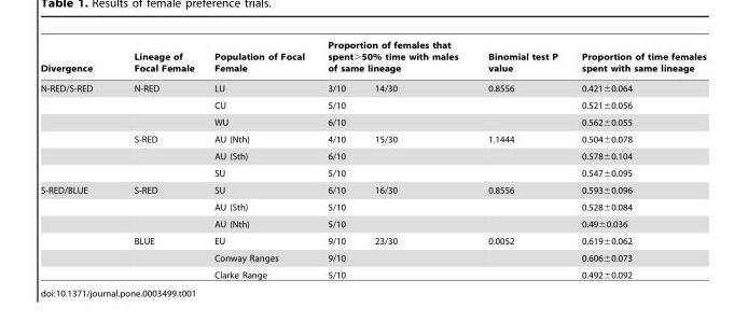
<table><thead><tr><td rowspan="2">Divergence N-RED/S-RED</td><td rowspan="2">Lineage of Focal Female N-RED</td><td rowspan="2">Population of Focal Female LU</td><td colspan="2">Proportion of females that spent&gt;50% time with males of same lineage</td><td rowspan="2">Binomial test P value 0.8556</td><td rowspan="2">Proportion of time females spent with same lineage 0.421±0.064</td></tr><tr><td>3/10</td><td>14/30</td></tr></thead><tbody><tr><td></td><td></td><td>CU</td><td>5/10</td><td></td><td></td><td>0.521±0.056</td></tr><tr><td></td><td></td><td>WU</td><td>6/10</td><td></td><td></td><td>0.562±0.055</td></tr><tr><td></td><td>S-RED</td><td>AU (Nth)</td><td>4/10</td><td>15/30</td><td>1.1444</td><td>0.504±0.078</td></tr><tr><td></td><td></td><td>AU (Sth)</td><td>6/10</td><td></td><td></td><td>0.578±0.104</td></tr><tr><td></td><td></td><td>SU</td><td>5/10</td><td></td><td></td><td>0.547±0.095</td></tr><tr><td rowspan="6">S-RED/BLUE</td><td>S-RED</td><td>SU</td><td>6/10</td><td>16/30</td><td>0.8556</td><td>0.593±0.096</td></tr><tr><td></td><td>AU (Sth)</td><td>5/10</td><td></td><td></td><td>0.528±0.084</td></tr><tr><td></td><td>AU (Nth)</td><td>5/10</td><td></td><td></td><td>0.49±0.036</td></tr><tr><td>BLUE</td><td>EU</td><td>9/10</td><td>23/30</td><td>0.0052</td><td>0.619±0.062</td></tr><tr><td></td><td>Conway Ranges</td><td>9/10</td><td></td><td></td><td>0.606±0.073</td></tr><tr><td></td><td>Clarke Range</td><td>5/10</td><td></td><td></td><td>0.492±0.092</td></tr></tbody></table>